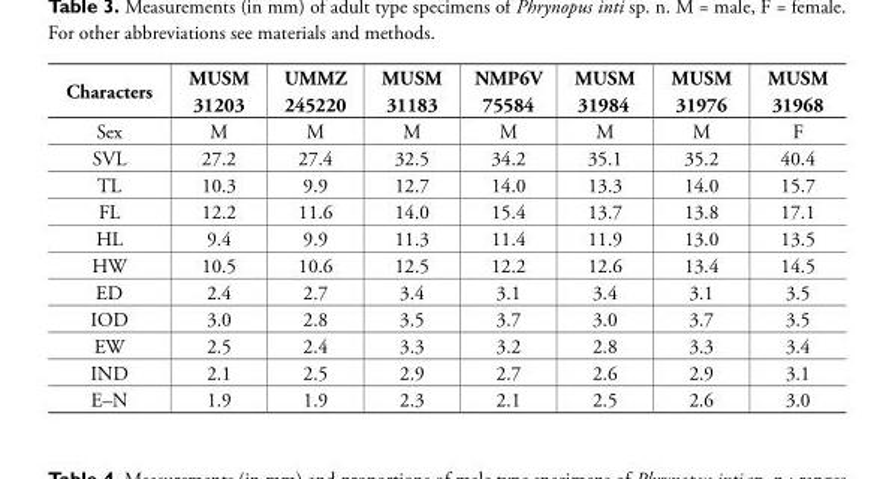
<table><thead><tr><td rowspan="2">Characters</td><td rowspan="2">MUSM 31203</td><td rowspan="2">UMMZ 245220</td><td rowspan="2">MUSM 31183</td><td rowspan="2">NMP6V 75584</td><td rowspan="2">MUSM 31984</td><td rowspan="2">MUSM 31976</td><td rowspan="2">MUSM 31968</td></tr><tr></tr></thead><tbody><tr><td>Sex</td><td>M</td><td>M</td><td>M</td><td>M</td><td>M</td><td>M</td><td>F</td></tr><tr><td>SVL</td><td>27.2</td><td>27.4</td><td>32.5</td><td>34.2</td><td>35.1</td><td>35.2</td><td>40.4</td></tr><tr><td>TL</td><td>10.3</td><td>9.9</td><td>12.7</td><td>14.0</td><td>13.3</td><td>14.0</td><td>15.7</td></tr><tr><td>FL</td><td>12.2</td><td>11.6</td><td>14.0</td><td>15.4</td><td>13.7</td><td>13.8</td><td>17.1</td></tr><tr><td>HL</td><td>9.4</td><td>9.9</td><td>11.3</td><td>11.4</td><td>11.9</td><td>13.0</td><td>13.5</td></tr><tr><td>HW</td><td>10.5</td><td>10.6</td><td>12.5</td><td>12.2</td><td>12.6</td><td>13.4</td><td>14.5</td></tr><tr><td>ED</td><td>2.4</td><td>2.7</td><td>3.4</td><td>3.1</td><td>3.4</td><td>3.1</td><td>3.5</td></tr><tr><td>IOD</td><td>3.0</td><td>2.8</td><td>3.5</td><td>3.7</td><td>3.0</td><td>3.7</td><td>3.5</td></tr><tr><td>EW</td><td>2.5</td><td>2.4</td><td>3.3</td><td>3.2</td><td>2.8</td><td>3.3</td><td>3.4</td></tr><tr><td>IND</td><td>2.1</td><td>2.5</td><td>2.9</td><td>2.7</td><td>2.6</td><td>2.9</td><td>3.1</td></tr><tr><td>E–N</td><td>1.9</td><td>1.9</td><td>2.3</td><td>2.1</td><td>2.5</td><td>2.6</td><td>3.0</td></tr></tbody></table>